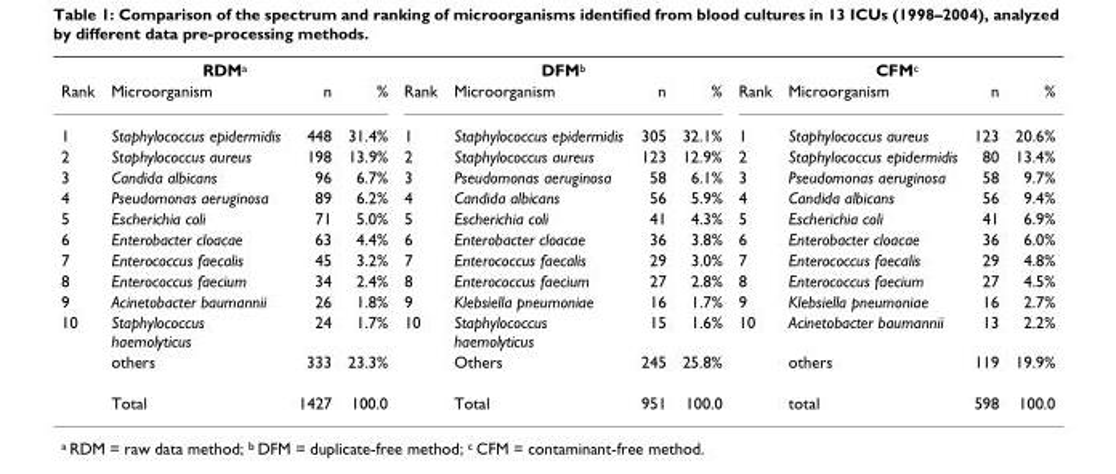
<table><tbody><tr><td colspan="4">RDM<sup>a</sup></td><td colspan="4">DFM<sup>b</sup></td><td colspan="4">CFM<sup>c</sup></td></tr><tr><td>Rank</td><td>Microorganism</td><td>n</td><td>%</td><td>Rank</td><td>Microorganism</td><td>n</td><td>%</td><td>Rank</td><td>Microorganism</td><td>n</td><td>%</td></tr><tr><td>1</td><td>Staphylococcus epidermidis</td><td>448</td><td>31.4%</td><td>1</td><td>Staphylococcus epidermidis</td><td>305</td><td>32.1%</td><td>1</td><td>Staphylococcus aureus</td><td>123</td><td>20.6%</td></tr><tr><td>2</td><td>Staphylococcus aureus</td><td>198</td><td>13.9%</td><td>2</td><td>Staphylococcus aureus</td><td>123</td><td>12.9%</td><td>2</td><td>Staphylococcus epidermidis</td><td>80</td><td>13.4%</td></tr><tr><td>3</td><td>Candida albicans</td><td>96</td><td>6.7%</td><td>3</td><td>Pseudomonas aeruginosa</td><td>58</td><td>6.1%</td><td>3</td><td>Pseudomonas aeruginosa</td><td>58</td><td>9.7%</td></tr><tr><td>4</td><td>Pseudomonas aeruginosa</td><td>89</td><td>6.2%</td><td>4</td><td>Candida albicans</td><td>56</td><td>5.9%</td><td>4</td><td>Candida albicans</td><td>56</td><td>9.4%</td></tr><tr><td>5</td><td>Escherichia coli</td><td>71</td><td>5.0%</td><td>5</td><td>Escherichia coli</td><td>41</td><td>4.3%</td><td>5</td><td>Escherichia coli</td><td>41</td><td>6.9%</td></tr><tr><td>6</td><td>Enterobacter cloacae</td><td>63</td><td>4.4%</td><td>6</td><td>Enterobacter cloacae</td><td>36</td><td>3.8%</td><td>6</td><td>Enterobacter cloacae</td><td>36</td><td>6.0%</td></tr><tr><td>7</td><td>Enterococcus faecalis</td><td>45</td><td>3.2%</td><td>7</td><td>Enterococcus faecalis</td><td>29</td><td>3.0%</td><td>7</td><td>Enterococcus faecalis</td><td>29</td><td>4.8%</td></tr><tr><td>8</td><td>Enterococcus faecium</td><td>34</td><td>2.4%</td><td>8</td><td>Enterococcus faecium</td><td>27</td><td>2.8%</td><td>8</td><td>Enterococcus faecium</td><td>27</td><td>4.5%</td></tr><tr><td>9</td><td>Acinetobacter baumannii</td><td>26</td><td>1.8%</td><td>9</td><td>Klebsiella pneumoniae</td><td>16</td><td>1.7%</td><td>9</td><td>Klebsiella pneumoniae</td><td>16</td><td>2.7%</td></tr><tr><td rowspan="3">10</td><td>Staphylococcus haemolyticus</td><td>24</td><td>1.7%</td><td>10</td><td>Staphylococcus haemolyticus</td><td>15</td><td>1.6%</td><td>10</td><td>Acinetobacter baumannii</td><td>13</td><td>2.2%</td></tr><tr><td>others</td><td>333</td><td>23.3%</td><td></td><td>Others</td><td>245</td><td>25.8%</td><td></td><td>others</td><td>119</td><td>19.9%</td></tr><tr><td>Total</td><td>1427</td><td>100.0</td><td></td><td>Total</td><td>951</td><td>100.0</td><td></td><td>total</td><td>598</td><td>100.0</td></tr></tbody></table>